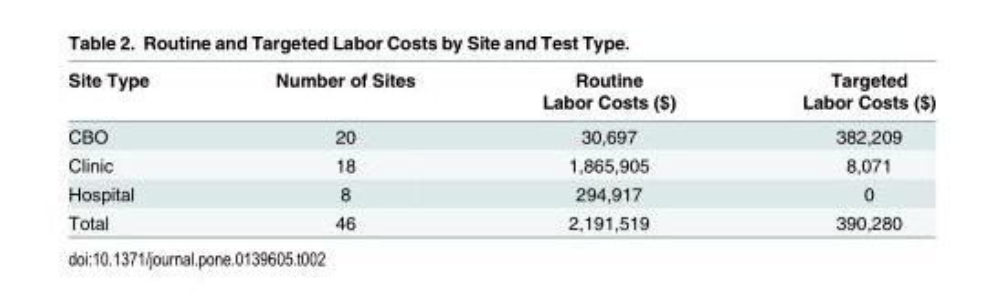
<table><thead><tr><td rowspan="2">Site Type</td><td rowspan="2">Number of Sites</td><td rowspan="2">Routine Labor Costs ($)</td><td rowspan="2">Targeted Labor Costs ($)</td></tr><tr></tr></thead><tbody><tr><td>CBO</td><td>20</td><td>30,697</td><td>382,209</td></tr><tr><td>Clinic</td><td>18</td><td>1,865,905</td><td>8,071</td></tr><tr><td>Hospital</td><td>8</td><td>294,917</td><td>0</td></tr><tr><td>Total</td><td>46</td><td>2,191,519</td><td>390,280</td></tr></tbody></table>